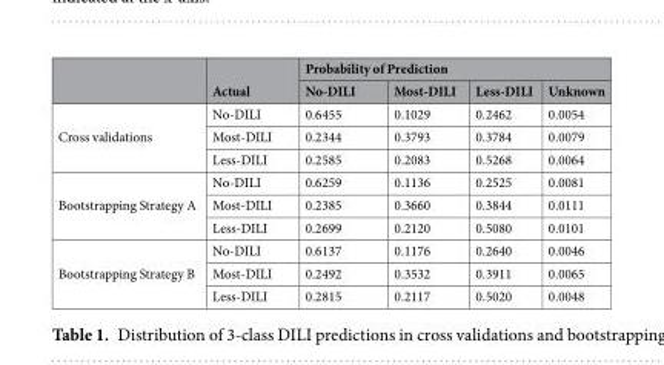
<table><thead><tr><td rowspan="2"></td><td rowspan="2">Actual</td><td colspan="4">Probability of Prediction</td></tr><tr><td>No-DILI</td><td>Most-DILI</td><td>Less-DILI</td><td>Unknown</td></tr></thead><tbody><tr><td rowspan="3">Cross validations</td><td>No-DILI</td><td>0.6455</td><td>0.1029</td><td>0.2462</td><td>0.0054</td></tr><tr><td>Most-DILI</td><td>0.2344</td><td>0.3793</td><td>0.3784</td><td>0.0079</td></tr><tr><td>Less-DILI</td><td>0.2585</td><td>0.2083</td><td>0.5268</td><td>0.0064</td></tr><tr><td rowspan="3">Bootstrapping Strategy A</td><td>No-DILI</td><td>0.6259</td><td>0.1136</td><td>0.2525</td><td>0.0081</td></tr><tr><td>Most-DILI</td><td>0.2385</td><td>0.3660</td><td>0.3844</td><td>0.0111</td></tr><tr><td>Less-DILI</td><td>0.2699</td><td>0.2120</td><td>0.5080</td><td>0.0101</td></tr><tr><td rowspan="3">Bootstrapping Strategy B</td><td>No-DILI</td><td>0.6137</td><td>0.1176</td><td>0.2640</td><td>0.0046</td></tr><tr><td>Most-DILI</td><td>0.2492</td><td>0.3532</td><td>0.3911</td><td>0.0065</td></tr><tr><td>Less-DILI</td><td>0.2815</td><td>0.2117</td><td>0.5020</td><td>0.0048</td></tr></tbody></table>